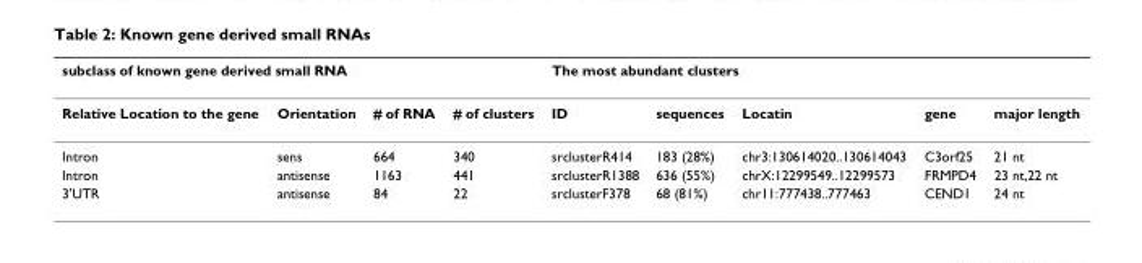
<table><thead><tr><td colspan="4">subclass of known gene derived small RNA</td><td colspan="5">The most abundant clusters</td></tr><tr><td>Relative Location to the gene</td><td>Orientation</td><td># of RNA</td><td># of clusters</td><td>ID</td><td>sequences</td><td>Locatin</td><td>gene</td><td>major length</td></tr></thead><tbody><tr><td>Intron</td><td>sens</td><td>664</td><td>340</td><td>srclusterR414</td><td>183 (28%)</td><td>chr3:130614020..130614043</td><td>C3orf25</td><td>21 nt</td></tr><tr><td>Intron</td><td>antisense</td><td>1163</td><td>441</td><td>srclusterR1388</td><td>636 (55%)</td><td>chrX:12299549..12299573</td><td>FRMPD4</td><td>23 nt,22 nt</td></tr><tr><td>3&#x27;UTR</td><td>antisense</td><td>84</td><td>22</td><td>srclusterF378</td><td>68 (81%)</td><td>chr11:777438..777463</td><td>CEND1</td><td>24 nt</td></tr></tbody></table>